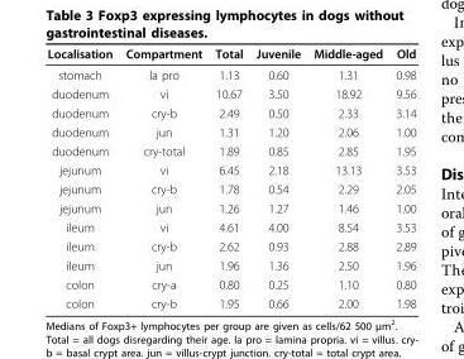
<table><thead><tr><td>Localisation</td><td>Compartment</td><td>Total</td><td>Juvenile</td><td>Middle-aged</td><td>Old</td></tr></thead><tbody><tr><td>stomach</td><td>la pro</td><td>1.13</td><td>0.60</td><td>1.31</td><td>0.98</td></tr><tr><td>duodenum</td><td>vi</td><td>10.67</td><td>3.50</td><td>18.92</td><td>9.56</td></tr><tr><td>duodenum</td><td>cry-b</td><td>2.49</td><td>0.50</td><td>2.33</td><td>3.14</td></tr><tr><td>duodenum</td><td>jun</td><td>1.31</td><td>1.20</td><td>2.06</td><td>1.00</td></tr><tr><td>duodenum</td><td>cry-total</td><td>1.89</td><td>0.85</td><td>2.85</td><td>1.95</td></tr><tr><td>jejunum</td><td>vi</td><td>6.45</td><td>2.18</td><td>13.13</td><td>3.53</td></tr><tr><td>jejunum</td><td>cry-b</td><td>1.78</td><td>0.54</td><td>2.29</td><td>2.05</td></tr><tr><td>jejunum</td><td>jun</td><td>1.26</td><td>1.27</td><td>1.46</td><td>1.00</td></tr><tr><td>ileum</td><td>vi</td><td>4.61</td><td>4.00</td><td>8.54</td><td>3.53</td></tr><tr><td>ileum</td><td>cry-b</td><td>2.62</td><td>0.93</td><td>2.88</td><td>2.89</td></tr><tr><td>ileum</td><td>jun</td><td>1.96</td><td>1.36</td><td>2.50</td><td>1.96</td></tr><tr><td>colon</td><td>cry-a</td><td>0.80</td><td>0.25</td><td>1.10</td><td>0.80</td></tr><tr><td>colon</td><td>cry-b</td><td>1.95</td><td>0.66</td><td>2.00</td><td>1.98</td></tr></tbody></table>